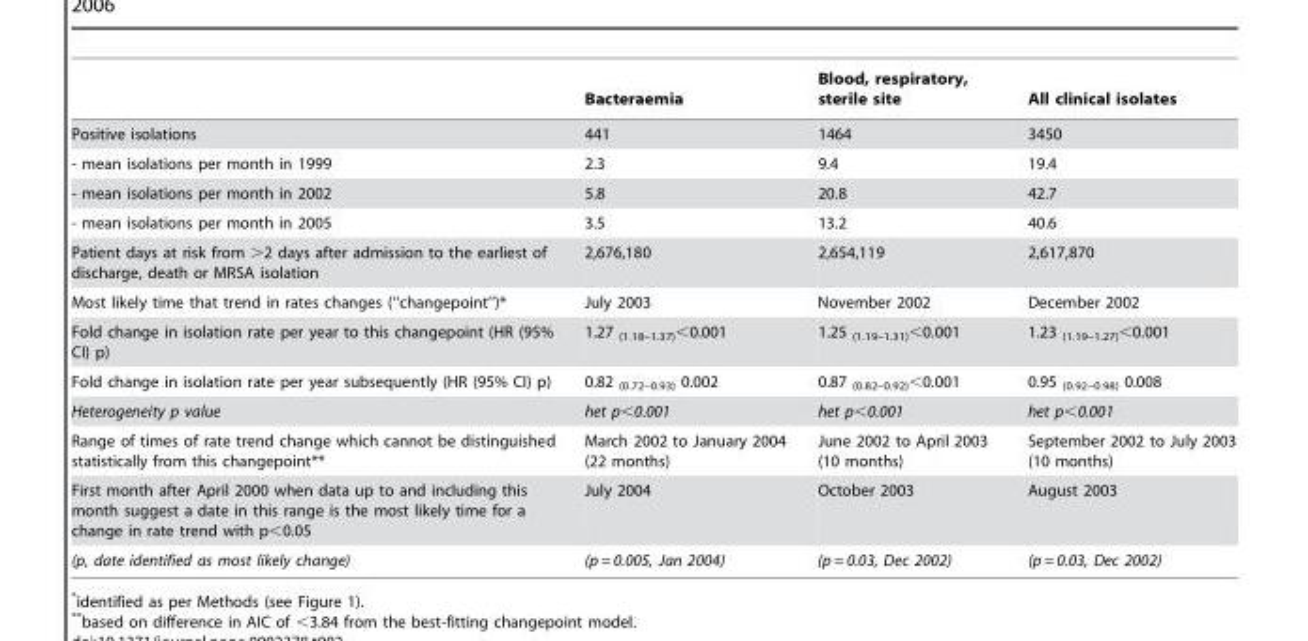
<table><thead><tr><td></td><td>Bacteraemia</td><td>Blood, respiratory, sterile site</td><td>All clinical isolates</td></tr></thead><tbody><tr><td>Positive isolations</td><td>441</td><td>1464</td><td>3450</td></tr><tr><td>- mean isolations per month in 1999</td><td>2.3</td><td>9.4</td><td>19.4</td></tr><tr><td>- mean isolations per month in 2002</td><td>5.8</td><td>20.8</td><td>42.7</td></tr><tr><td>- mean isolations per month in 2005</td><td>3.5</td><td>13.2</td><td>40.6</td></tr><tr><td>Patient days at risk from &gt;2 days after admission to the earliest of discharge, death or MRSA isolation</td><td>2,676,180</td><td>2,654,119</td><td>2,617,870</td></tr><tr><td>Most likely time that trend in rates changes (‘‘changepoint’’)*</td><td>July 2003</td><td>November 2002</td><td>December 2002</td></tr><tr><td>Fold change in isolation rate per year to this changepoint (HR (95% CI) p)</td><td>1.27 <sub>(1.18–1.37)</sub>&lt;0.001</td><td>1.25 <sub>(1.19–1.31)</sub>&lt;0.001</td><td>1.23 <sub>(1.19–1.27)</sub>&lt;0.001</td></tr><tr><td>Fold change in isolation rate per year subsequently (HR (95% CI) p)</td><td>0.82 <sub>(0.72–0.93)</sub> 0.002</td><td>0.87 <sub>(0.82–0.92)</sub>&lt;0.001</td><td>0.95 <sub>(0.92–0.98)</sub> 0.008</td></tr><tr><td>Heterogeneity p value</td><td>het p&lt;0.001</td><td>het p&lt;0.001</td><td>het p&lt;0.001</td></tr><tr><td>Range of times of rate trend change which cannot be distinguished statistically from this changepoint**</td><td>March 2002 to January 2004 (22 months)</td><td>June 2002 to April 2003 (10 months)</td><td>September 2002 to July 2003 (10 months)</td></tr><tr><td>First month after April 2000 when data up to and including this month suggest a date in this range is the most likely time for a change in rate trend with p&lt;0.05</td><td>July 2004</td><td>October 2003</td><td>August 2003</td></tr><tr><td>(p, date identified as most likely change)</td><td>(p = 0.005, Jan 2004)</td><td>(p = 0.03, Dec 2002)</td><td>(p = 0.03, Dec 2002)</td></tr></tbody></table>